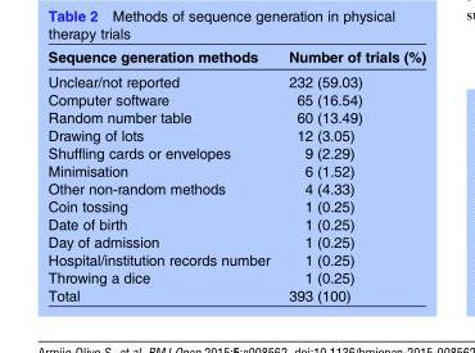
<table><thead><tr><td>Sequence generation methods</td><td>Number of trials (%)</td></tr></thead><tbody><tr><td>Unclear/not reported</td><td>232 (59.03)</td></tr><tr><td>Computer software</td><td>65 (16.54)</td></tr><tr><td>Random number table</td><td>60 (13.49)</td></tr><tr><td>Drawing of lots</td><td>12 (3.05)</td></tr><tr><td>Shuffling cards or envelopes</td><td>9 (2.29)</td></tr><tr><td>Minimisation</td><td>6 (1.52)</td></tr><tr><td>Other non-random methods</td><td>4 (4.33)</td></tr><tr><td>Coin tossing</td><td>1 (0.25)</td></tr><tr><td>Date of birth</td><td>1 (0.25)</td></tr><tr><td>Day of admission</td><td>1 (0.25)</td></tr><tr><td>Hospital/institution records number</td><td>1 (0.25)</td></tr><tr><td>Throwing a dice</td><td>1 (0.25)</td></tr><tr><td>Total</td><td>393 (100)</td></tr></tbody></table>